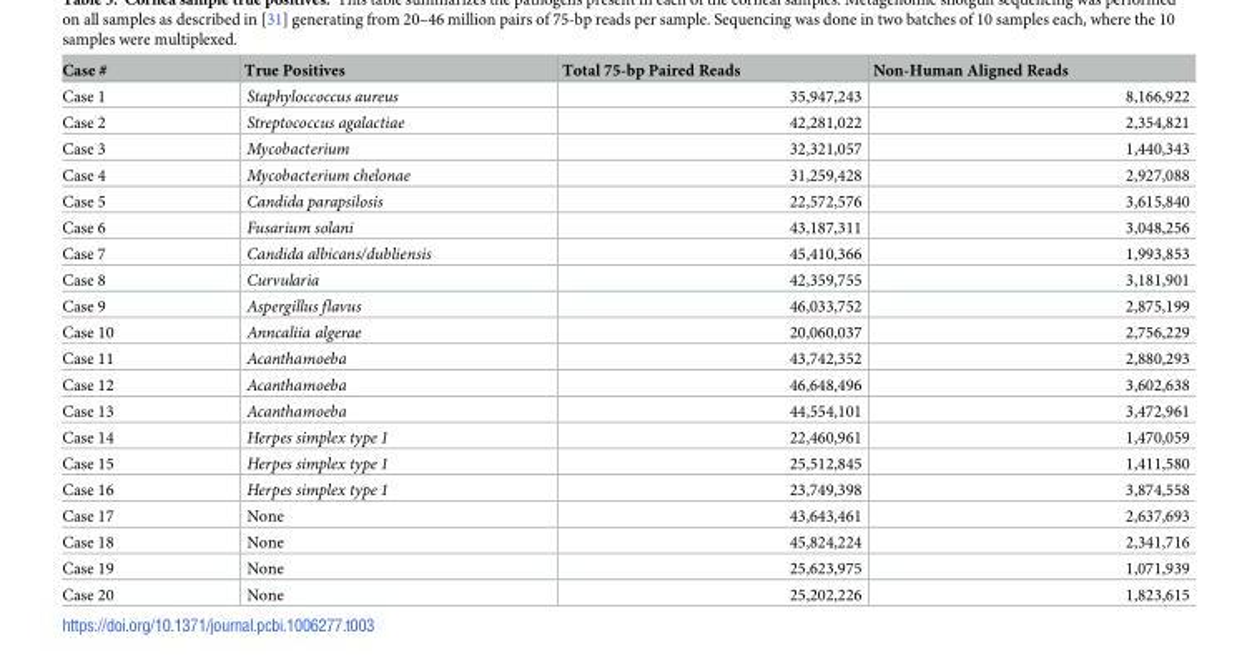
<table><thead><tr><td>Case #</td><td>True Positives</td><td>Total 75-bp Paired Reads</td><td>Non-Human Aligned Reads</td></tr></thead><tbody><tr><td>Case 1</td><td>Staphyloccoccus aureus</td><td>35,947,243</td><td>8,166,922</td></tr><tr><td>Case 2</td><td>Streptococcus agalactiae</td><td>42,281,022</td><td>2,354,821</td></tr><tr><td>Case 3</td><td>Mycobacterium</td><td>32,321,057</td><td>1,440,343</td></tr><tr><td>Case 4</td><td>Mycobacterium chelonae</td><td>31,259,428</td><td>2,927,088</td></tr><tr><td>Case 5</td><td>Candida parapsilosis</td><td>22,572,576</td><td>3,615,840</td></tr><tr><td>Case 6</td><td>Fusarium solani</td><td>43,187,311</td><td>3,048,256</td></tr><tr><td>Case 7</td><td>Candida albicans/dubliensis</td><td>45,410,366</td><td>1,993,853</td></tr><tr><td>Case 8</td><td>Curvularia</td><td>42,359,755</td><td>3,181,901</td></tr><tr><td>Case 9</td><td>Aspergillus flavus</td><td>46,033,752</td><td>2,875,199</td></tr><tr><td>Case 10</td><td>Anncaliia algerae</td><td>20,060,037</td><td>2,756,229</td></tr><tr><td>Case 11</td><td>Acanthamoeba</td><td>43,742,352</td><td>2,880,293</td></tr><tr><td>Case 12</td><td>Acanthamoeba</td><td>46,648,496</td><td>3,602,638</td></tr><tr><td>Case 13</td><td>Acanthamoeba</td><td>44,554,101</td><td>3,472,961</td></tr><tr><td>Case 14</td><td>Herpes simplex type 1</td><td>22,460,961</td><td>1,470,059</td></tr><tr><td>Case 15</td><td>Herpes simplex type 1</td><td>25,512,845</td><td>1,411,580</td></tr><tr><td>Case 16</td><td>Herpes simplex type 1</td><td>23,749,398</td><td>3,874,558</td></tr><tr><td>Case 17</td><td>None</td><td>43,643,461</td><td>2,637,693</td></tr><tr><td>Case 18</td><td>None</td><td>45,824,224</td><td>2,341,716</td></tr><tr><td>Case 19</td><td>None</td><td>25,623,975</td><td>1,071,939</td></tr><tr><td>Case 20</td><td>None</td><td>25,202,226</td><td>1,823,615</td></tr></tbody></table>